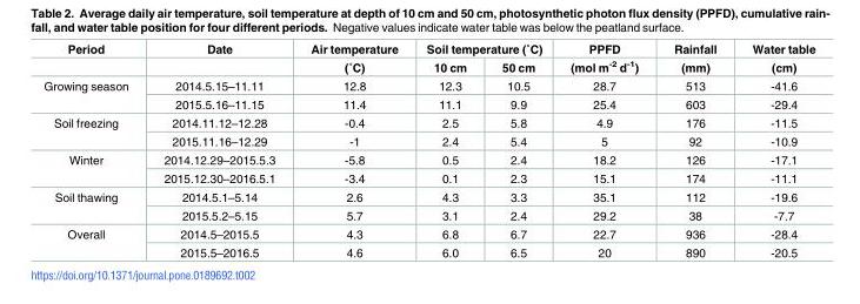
<table><thead><tr><td rowspan="2">Period</td><td rowspan="2">Date</td><td rowspan="2">Air temperature (˚C)</td><td colspan="2">Soil temperature (˚C)</td><td rowspan="2">PPFD (mol m<sup>-2</sup> d<sup>-1</sup>)</td><td rowspan="2">Rainfall (mm)</td><td rowspan="2">Water table (cm)</td></tr><tr><td>10 cm</td><td>50 cm</td></tr></thead><tbody><tr><td rowspan="2">Growing season</td><td>2014.5.15–11.11</td><td>12.8</td><td>12.3</td><td>10.5</td><td>28.7</td><td>513</td><td>-41.6</td></tr><tr><td>2015.5.16–11.15</td><td>11.4</td><td>11.1</td><td>9.9</td><td>25.4</td><td>603</td><td>-29.4</td></tr><tr><td rowspan="2">Soil freezing</td><td>2014.11.12–12.28</td><td>-0.4</td><td>2.5</td><td>5.8</td><td>4.9</td><td>176</td><td>-11.5</td></tr><tr><td>2015.11.16–12.29</td><td>-1</td><td>2.4</td><td>5.4</td><td>5</td><td>92</td><td>-10.9</td></tr><tr><td rowspan="2">Winter</td><td>2014.12.29–2015.5.3</td><td>-5.8</td><td>0.5</td><td>2.4</td><td>18.2</td><td>126</td><td>-17.1</td></tr><tr><td>2015.12.30–2016.5.1</td><td>-3.4</td><td>0.1</td><td>2.3</td><td>15.1</td><td>174</td><td>-11.1</td></tr><tr><td rowspan="2">Soil thawing</td><td>2014.5.1–5.14</td><td>2.6</td><td>4.3</td><td>3.3</td><td>35.1</td><td>112</td><td>-19.6</td></tr><tr><td>2015.5.2–5.15</td><td>5.7</td><td>3.1</td><td>2.4</td><td>29.2</td><td>38</td><td>-7.7</td></tr><tr><td rowspan="2">Overall</td><td>2014.5–2015.5</td><td>4.3</td><td>6.8</td><td>6.7</td><td>22.7</td><td>936</td><td>-28.4</td></tr><tr><td>2015.5–2016.5</td><td>4.6</td><td>6.0</td><td>6.5</td><td>20</td><td>890</td><td>-20.5</td></tr></tbody></table>